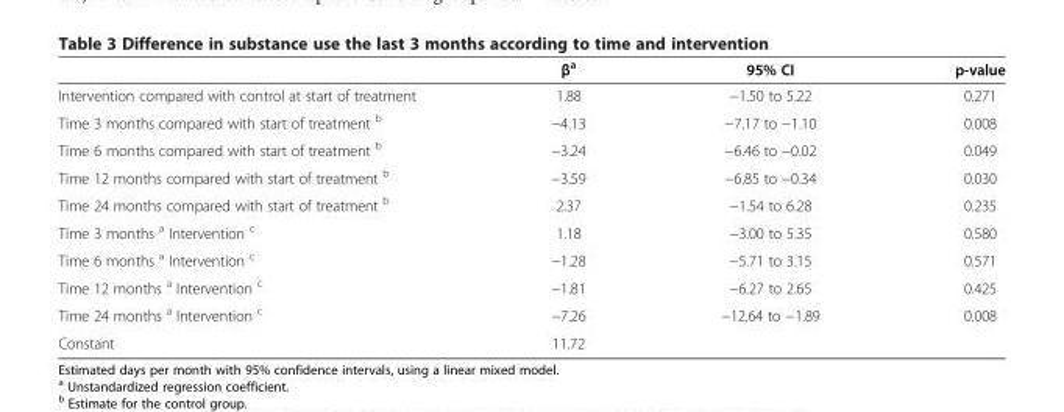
<table><thead><tr><td></td><td>β<sup>a</sup></td><td>95% CI</td><td>p-value</td></tr></thead><tbody><tr><td>Intervention compared with control at start of treatment</td><td>1.88</td><td>−1.50 to 5.22</td><td>0.271</td></tr><tr><td>Time 3 months compared with start of treatment <sup>b</sup></td><td>−4.13</td><td>−7.17 to −1.10</td><td>0.008</td></tr><tr><td>Time 6 months compared with start of treatment <sup>b</sup></td><td>−3.24</td><td>−6.46 to −0.02</td><td>0.049</td></tr><tr><td>Time 12 months compared with start of treatment <sup>b</sup></td><td>−3.59</td><td>−6.85 to −0.34</td><td>0.030</td></tr><tr><td>Time 24 months compared with start of treatment <sup>b</sup></td><td>2.37</td><td>−1.54 to 6.28</td><td>0.235</td></tr><tr><td>Time 3 months <sup>a</sup> Intervention <sup>c</sup></td><td>1.18</td><td>−3.00 to 5.35</td><td>0.580</td></tr><tr><td>Time 6 months <sup>a</sup> Intervention <sup>c</sup></td><td>−1.28</td><td>−5.71 to 3.15</td><td>0.571</td></tr><tr><td>Time 12 months <sup>a</sup> Intervention <sup>c</sup></td><td>−1.81</td><td>−6.27 to 2.65</td><td>0.425</td></tr><tr><td>Time 24 months <sup>a</sup> Intervention <sup>c</sup></td><td>−7.26</td><td>−12.64 to −1.89</td><td>0.008</td></tr><tr><td>Constant</td><td>11.72</td><td></td><td></td></tr></tbody></table>